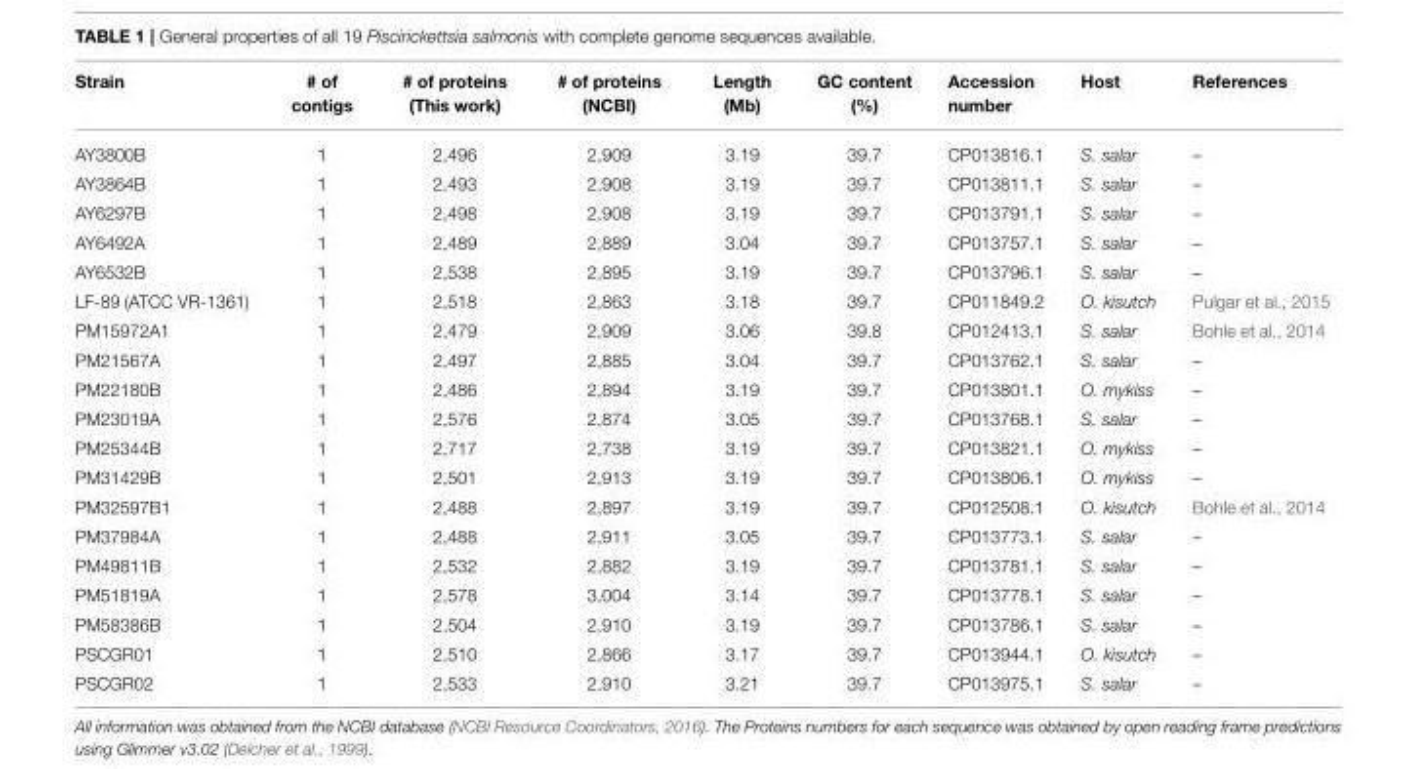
<table><thead><tr><td>Strain</td><td># of contigs</td><td># of proteins (This work)</td><td># of proteins (NCBI)</td><td>Length (Mb)</td><td>GC content (%)</td><td>Accession number</td><td>Host</td><td>References</td></tr></thead><tbody><tr><td>AY3800B</td><td>1</td><td>2,496</td><td>2,909</td><td>3.19</td><td>39.7</td><td>CP013816.1</td><td>S. salar</td><td>–</td></tr><tr><td>AY3864B</td><td>1</td><td>2,493</td><td>2,908</td><td>3.19</td><td>39.7</td><td>CP013811.1</td><td>S. salar</td><td>–</td></tr><tr><td>AY6297B</td><td>1</td><td>2,498</td><td>2,908</td><td>3.19</td><td>39.7</td><td>CP013791.1</td><td>S. salar</td><td>–</td></tr><tr><td>AY6492A</td><td>1</td><td>2,489</td><td>2,889</td><td>3.04</td><td>39.7</td><td>CP013757.1</td><td>S. salar</td><td>–</td></tr><tr><td>AY6532B</td><td>1</td><td>2,538</td><td>2,895</td><td>3.19</td><td>39.7</td><td>CP013796.1</td><td>S. salar</td><td>–</td></tr><tr><td>LF-89 (ATCC VR-1361)</td><td>1</td><td>2,518</td><td>2,863</td><td>3.18</td><td>39.7</td><td>CP011849.2</td><td>O. kisutch</td><td>Pulgar et al., 2015</td></tr><tr><td>PM15972A1</td><td>1</td><td>2,479</td><td>2,909</td><td>3.06</td><td>39.8</td><td>CP012413.1</td><td>S. salar</td><td>Bohle et al., 2014</td></tr><tr><td>PM21567A</td><td>1</td><td>2,497</td><td>2,885</td><td>3.04</td><td>39.7</td><td>CP013762.1</td><td>S. salar</td><td>–</td></tr><tr><td>PM22180B</td><td>1</td><td>2,486</td><td>2,894</td><td>3.19</td><td>39.7</td><td>CP013801.1</td><td>O. mykiss</td><td>–</td></tr><tr><td>PM23019A</td><td>1</td><td>2,576</td><td>2,874</td><td>3.05</td><td>39.7</td><td>CP013768.1</td><td>S. salar</td><td>–</td></tr><tr><td>PM25344B</td><td>1</td><td>2,717</td><td>2,738</td><td>3.19</td><td>39.7</td><td>CP013821.1</td><td>O. mykiss</td><td>–</td></tr><tr><td>PM31429B</td><td>1</td><td>2,501</td><td>2,913</td><td>3.19</td><td>39.7</td><td>CP013806.1</td><td>O. mykiss</td><td>–</td></tr><tr><td>PM32597B1</td><td>1</td><td>2,488</td><td>2,897</td><td>3.19</td><td>39.7</td><td>CP012508.1</td><td>O. kisutch</td><td>Bohle et al., 2014</td></tr><tr><td>PM37984A</td><td>1</td><td>2,488</td><td>2,911</td><td>3.05</td><td>39.7</td><td>CP013773.1</td><td>S. salar</td><td>–</td></tr><tr><td>PM49811B</td><td>1</td><td>2,532</td><td>2,882</td><td>3.19</td><td>39.7</td><td>CP013781.1</td><td>S. salar</td><td>–</td></tr><tr><td>PM51819A</td><td>1</td><td>2,578</td><td>3,004</td><td>3.14</td><td>39.7</td><td>CP013778.1</td><td>S. salar</td><td>–</td></tr><tr><td>PM58386B</td><td>1</td><td>2,504</td><td>2,910</td><td>3.19</td><td>39.7</td><td>CP013786.1</td><td>S. salar</td><td>–</td></tr><tr><td>PSCGR01</td><td>1</td><td>2,510</td><td>2,866</td><td>3.17</td><td>39.7</td><td>CP013944.1</td><td>O. kisutch</td><td>–</td></tr><tr><td>PSCGR02</td><td>1</td><td>2,533</td><td>2,910</td><td>3.21</td><td>39.7</td><td>CP013975.1</td><td>S. salar</td><td>–</td></tr></tbody></table>